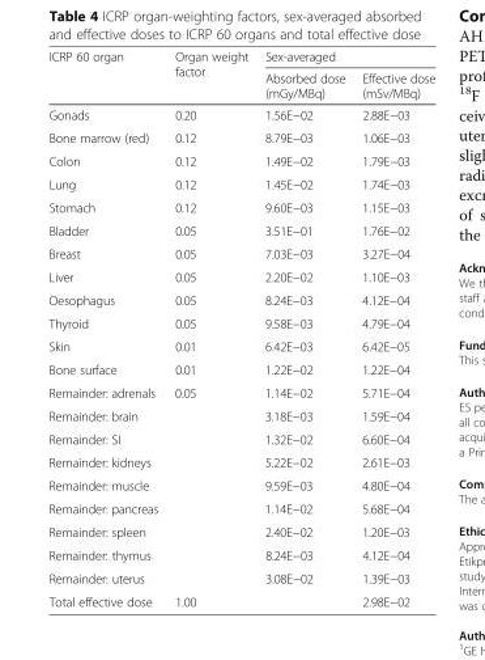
<table><thead><tr><td rowspan="2">ICRP 60 organ</td><td rowspan="2">Organ weight factor</td><td colspan="2">Sex-averaged</td></tr><tr><td>Absorbed dose (mGy/MBq)</td><td>Effective dose (mSv/MBq)</td></tr></thead><tbody><tr><td>Gonads</td><td>0.20</td><td>1.56E−02</td><td>2.88E−03</td></tr><tr><td>Bone marrow (red)</td><td>0.12</td><td>8.79E−03</td><td>1.06E−03</td></tr><tr><td>Colon</td><td>0.12</td><td>1.49E−02</td><td>1.79E−03</td></tr><tr><td>Lung</td><td>0.12</td><td>1.45E−02</td><td>1.74E−03</td></tr><tr><td>Stomach</td><td>0.12</td><td>9.60E−03</td><td>1.15E−03</td></tr><tr><td>Bladder</td><td>0.05</td><td>3.51E−01</td><td>1.76E−02</td></tr><tr><td>Breast</td><td>0.05</td><td>7.03E−03</td><td>3.27E−04</td></tr><tr><td>Liver</td><td>0.05</td><td>2.20E−02</td><td>1.10E−03</td></tr><tr><td>Oesophagus</td><td>0.05</td><td>8.24E−03</td><td>4.12E−04</td></tr><tr><td>Thyroid</td><td>0.05</td><td>9.58E−03</td><td>4.79E−04</td></tr><tr><td>Skin</td><td>0.01</td><td>6.42E−03</td><td>6.42E−05</td></tr><tr><td>Bone surface</td><td>0.01</td><td>1.22E−02</td><td>1.22E−04</td></tr><tr><td>Remainder: adrenals</td><td rowspan="9">0.05</td><td>1.14E−02</td><td>5.71E−04</td></tr><tr><td>Remainder: brain</td><td>3.18E−03</td><td>1.59E−04</td></tr><tr><td>Remainder: SI</td><td>1.32E−02</td><td>6.60E−04</td></tr><tr><td>Remainder: kidneys</td><td>5.22E−02</td><td>2.61E−03</td></tr><tr><td>Remainder: muscle</td><td>9.59E−03</td><td>4.80E−04</td></tr><tr><td>Remainder: pancreas</td><td>1.14E−02</td><td>5.68E−04</td></tr><tr><td>Remainder: spleen</td><td>2.40E−02</td><td>1.20E−03</td></tr><tr><td>Remainder: thymus</td><td>8.24E−03</td><td>4.12E−04</td></tr><tr><td>Remainder: uterus</td><td>3.08E−02</td><td>1.39E−03</td></tr><tr><td>Total effective dose</td><td>1.00</td><td></td><td>2.98E−02</td></tr></tbody></table>